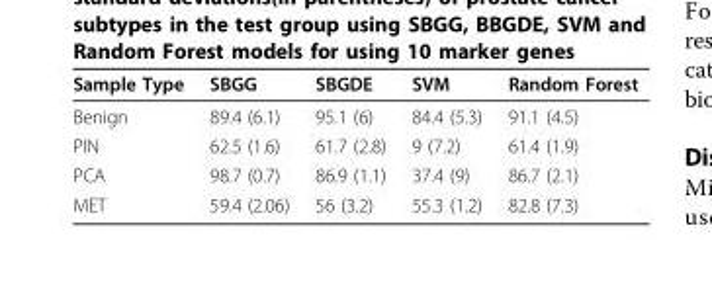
<table><thead><tr><td>Sample Type</td><td>SBGG</td><td>SBGDE</td><td>SVM</td><td>Random Forest</td></tr></thead><tbody><tr><td>Benign</td><td>89.4 (6.1)</td><td>95.1 (6)</td><td>84.4 (5.3)</td><td>91.1 (4.5)</td></tr><tr><td>PIN</td><td>62.5 (1.6)</td><td>61.7 (2.8)</td><td>9 (7.2)</td><td>61.4 (1.9)</td></tr><tr><td>PCA</td><td>98.7 (0.7)</td><td>86.9 (1.1)</td><td>37.4 (9)</td><td>86.7 (2.1)</td></tr><tr><td>MET</td><td>59.4 (2.06)</td><td>56 (3.2)</td><td>55.3 (1.2)</td><td>82.8 (7.3)</td></tr></tbody></table>